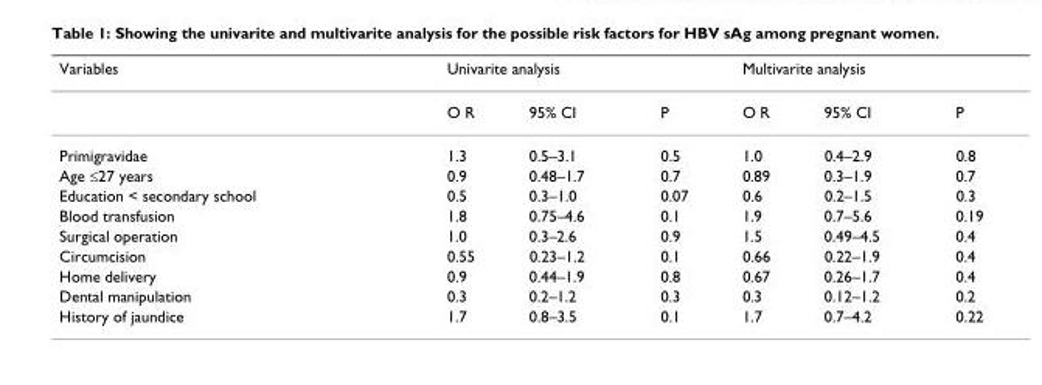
<table><thead><tr><td rowspan="2">Variables</td><td colspan="3">Univarite analysis</td><td colspan="3">Multivarite analysis</td></tr><tr><td>O R</td><td>95% CI</td><td>P</td><td>O R</td><td>95% CI</td><td>P</td></tr></thead><tbody><tr><td>Primigravidae</td><td>1.3</td><td>0.5–3.1</td><td>0.5</td><td>1.0</td><td>0.4–2.9</td><td>0.8</td></tr><tr><td>Age ≤27 years</td><td>0.9</td><td>0.48–1.7</td><td>0.7</td><td>0.89</td><td>0.3–1.9</td><td>0.7</td></tr><tr><td>Education &lt; secondary school</td><td>0.5</td><td>0.3–1.0</td><td>0.07</td><td>0.6</td><td>0.2–1.5</td><td>0.3</td></tr><tr><td>Blood transfusion</td><td>1.8</td><td>0.75–4.6</td><td>0.1</td><td>1.9</td><td>0.7–5.6</td><td>0.19</td></tr><tr><td>Surgical operation</td><td>1.0</td><td>0.3–2.6</td><td>0.9</td><td>1.5</td><td>0.49–4.5</td><td>0.4</td></tr><tr><td>Circumcision</td><td>0.55</td><td>0.23–1.2</td><td>0.1</td><td>0.66</td><td>0.22–1.9</td><td>0.4</td></tr><tr><td>Home delivery</td><td>0.9</td><td>0.44–1.9</td><td>0.8</td><td>0.67</td><td>0.26–1.7</td><td>0.4</td></tr><tr><td>Dental manipulation</td><td>0.3</td><td>0.2–1.2</td><td>0.3</td><td>0.3</td><td>0.12–1.2</td><td>0.2</td></tr><tr><td>History of jaundice</td><td>1.7</td><td>0.8–3.5</td><td>0.1</td><td>1.7</td><td>0.7–4.2</td><td>0.22</td></tr></tbody></table>